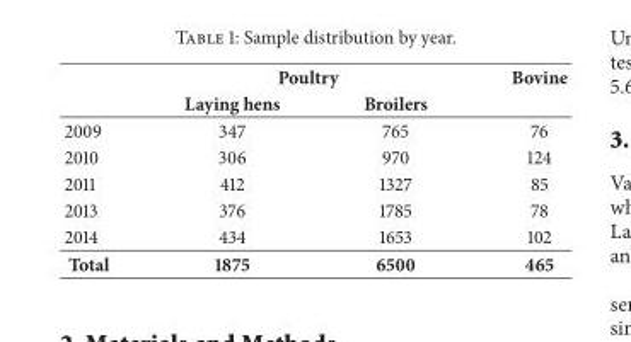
<table><thead><tr><td rowspan="2"></td><td colspan="2">Poultry</td><td rowspan="2">Bovine</td></tr><tr><td>Laying hens</td><td>Broilers</td></tr></thead><tbody><tr><td>2009</td><td>347</td><td>765</td><td>76</td></tr><tr><td>2010</td><td>306</td><td>970</td><td>124</td></tr><tr><td>2011</td><td>412</td><td>1327</td><td>85</td></tr><tr><td>2013</td><td>376</td><td>1785</td><td>78</td></tr><tr><td>2014</td><td>434</td><td>1653</td><td>102</td></tr><tr><td>Total</td><td>1875</td><td>6500</td><td>465</td></tr></tbody></table>